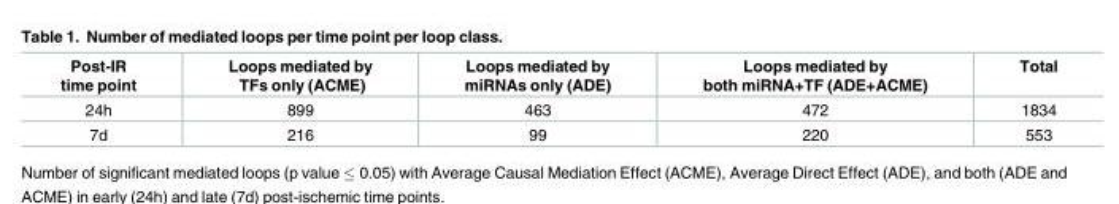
<table><thead><tr><td>Post-IR time point</td><td>Loops mediated by TFs only (ACME)</td><td>Loops mediated by miRNAs only (ADE)</td><td>Loops mediated by both miRNA+TF (ADE+ACME)</td><td>Total</td></tr></thead><tbody><tr><td>24h</td><td>899</td><td>463</td><td>472</td><td>1834</td></tr><tr><td>7d</td><td>216</td><td>99</td><td>220</td><td>553</td></tr></tbody></table>